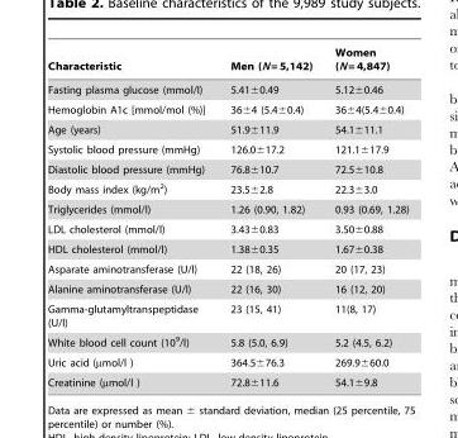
<table><thead><tr><td>Characteristic</td><td>Men (N = 5,142)</td><td>Women (N = 4,847)</td></tr></thead><tbody><tr><td>Fasting plasma glucose (mmol/l)</td><td>5.41±0.49</td><td>5.12±0.46</td></tr><tr><td>Hemoglobin A1c [mmol/mol (%)]</td><td>36±4 (5.4±0.4)</td><td>36±4(5.4±0.4)</td></tr><tr><td>Age (years)</td><td>51.9±11.9</td><td>54.1±11.1</td></tr><tr><td>Systolic blood pressure (mmHg)</td><td>126.0±17.2</td><td>121.1±17.9</td></tr><tr><td>Diastolic blood pressure (mmHg)</td><td>76.8±10.7</td><td>72.5±10.8</td></tr><tr><td>Body mass index (kg/m<sup>2</sup>)</td><td>23.5±2.8</td><td>22.3±3.0</td></tr><tr><td>Triglycerides (mmol/l)</td><td>1.26 (0.90, 1.82)</td><td>0.93 (0.69, 1.28)</td></tr><tr><td>LDL cholesterol (mmol/l)</td><td>3.43±0.83</td><td>3.50±0.88</td></tr><tr><td>HDL cholesterol (mmol/l)</td><td>1.38±0.35</td><td>1.67±0.38</td></tr><tr><td>Asparate aminotransferase (U/l)</td><td>22 (18, 26)</td><td>20 (17, 23)</td></tr><tr><td>Alanine aminotransferase (U/l)</td><td>22 (16, 30)</td><td>16 (12, 20)</td></tr><tr><td>Gamma-glutamyltranspeptidase (U/l)</td><td>23 (15, 41)</td><td>11(8, 17)</td></tr><tr><td>White blood cell count (10<sup>9</sup>/l)</td><td>5.8 (5.0, 6.9)</td><td>5.2 (4.5, 6.2)</td></tr><tr><td>Uric acid (µmol/l )</td><td>364.5±76.3</td><td>269.9±60.0</td></tr><tr><td>Creatinine (µmol/l )</td><td>72.8±11.6</td><td>54.1±9.8</td></tr></tbody></table>